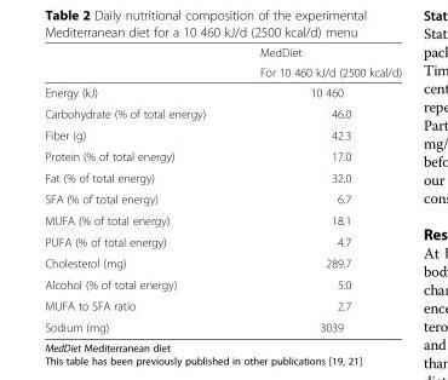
<table><thead><tr><td rowspan="2"></td><td rowspan="2">MedDiet For 10 460 kJ/d (2500 kcal/d)</td></tr><tr></tr></thead><tbody><tr><td>Energy (kJ)</td><td>10 460</td></tr><tr><td>Carbohydrate (% of total energy)</td><td>46.0</td></tr><tr><td>Fiber (g)</td><td>42.3</td></tr><tr><td>Protein (% of total energy)</td><td>17.0</td></tr><tr><td>Fat (% of total energy)</td><td>32.0</td></tr><tr><td>SFA (% of total energy)</td><td>6.7</td></tr><tr><td>MUFA (% of total energy)</td><td>18.1</td></tr><tr><td>PUFA (% of total energy)</td><td>4.7</td></tr><tr><td>Cholesterol (mg)</td><td>289.7</td></tr><tr><td>Alcohol (% of total energy)</td><td>5.0</td></tr><tr><td>MUFA to SFA ratio</td><td>2.7</td></tr><tr><td>Sodium (mg)</td><td>3039</td></tr></tbody></table>